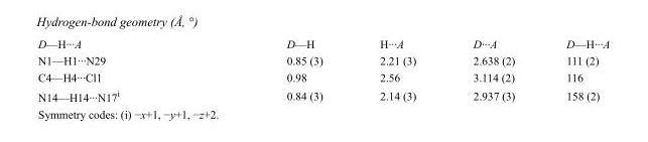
<table><tbody><tr><td>D—H···A</td><td>D—H</td><td>H···A</td><td>D···A</td><td>D—H···A</td></tr><tr><td>N1—H1···N29</td><td>0.85 (3)</td><td>2.21 (3)</td><td>2.638 (2)</td><td>111 (2)</td></tr><tr><td>C4—H4···Cl1</td><td>0.98</td><td>2.56</td><td>3.114 (2)</td><td>116</td></tr><tr><td>N14—H14···N17<sup>i</sup></td><td>0.84 (3)</td><td>2.14 (3)</td><td>2.937 (3)</td><td>158 (2)</td></tr></tbody></table>